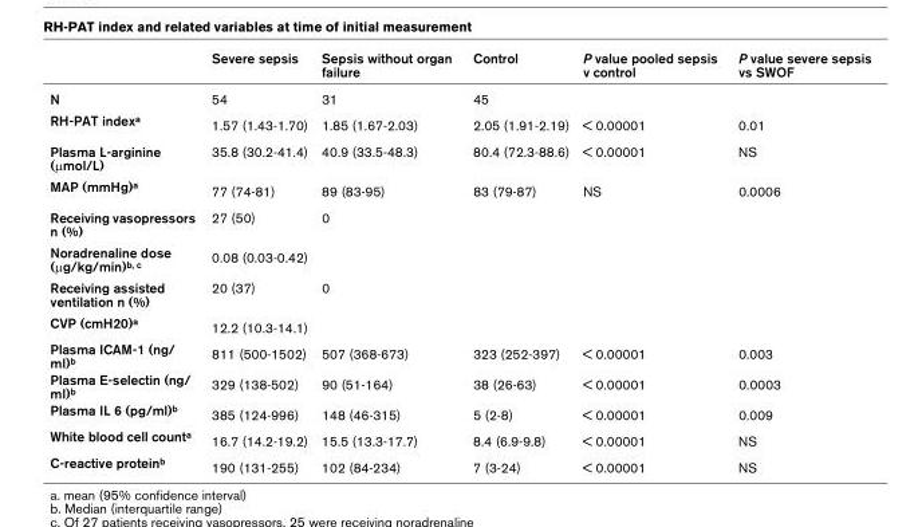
<table><thead><tr><td></td><td>Severe sepsis</td><td>Sepsis without organ failure</td><td>Control</td><td>P value pooled sepsis v control</td><td>P value severe sepsis vs SWOF</td></tr></thead><tbody><tr><td>N</td><td>54</td><td>31</td><td>45</td><td></td><td></td></tr><tr><td>RH-PAT index<sup>a</sup></td><td>1.57 (1.43-1.70)</td><td>1.85 (1.67-2.03)</td><td>2.05 (1.91-2.19)</td><td>&lt; 0.00001</td><td>0.01</td></tr><tr><td>Plasma L-arginine (μmol/L)</td><td>35.8 (30.2-41.4)</td><td>40.9 (33.5-48.3)</td><td>80.4 (72.3-88.6)</td><td>&lt; 0.00001</td><td>NS</td></tr><tr><td>MAP (mmHg)<sup>a</sup></td><td>77 (74-81)</td><td>89 (83-95)</td><td>83 (79-87)</td><td>NS</td><td>0.0006</td></tr><tr><td>Receiving vasopressors n (%)</td><td>27 (50)</td><td>0</td><td></td><td></td><td></td></tr><tr><td>Noradrenaline dose (μg/kg/min)<sup>b, c</sup></td><td>0.08 (0.03-0.42)</td><td></td><td></td><td></td><td></td></tr><tr><td>Receiving assisted ventilation n (%)</td><td>20 (37)</td><td>0</td><td></td><td></td><td></td></tr><tr><td>CVP (cmH20)<sup>a</sup></td><td>12.2 (10.3-14.1)</td><td></td><td></td><td></td><td></td></tr><tr><td>Plasma ICAM-1 (ng/ ml)<sup>b</sup></td><td>811 (500-1502)</td><td>507 (368-673)</td><td>323 (252-397)</td><td>&lt; 0.00001</td><td>0.003</td></tr><tr><td>Plasma E-selectin (ng/ ml)<sup>b</sup></td><td>329 (138-502)</td><td>90 (51-164)</td><td>38 (26-63)</td><td>&lt; 0.00001</td><td>0.0003</td></tr><tr><td>Plasma IL 6 (pg/ml)<sup>b</sup></td><td>385 (124-996)</td><td>148 (46-315)</td><td>5 (2-8)</td><td>&lt; 0.00001</td><td>0.009</td></tr><tr><td>White blood cell count<sup>a</sup></td><td>16.7 (14.2-19.2)</td><td>15.5 (13.3-17.7)</td><td>8.4 (6.9-9.8)</td><td>&lt; 0.00001</td><td>NS</td></tr><tr><td>C-reactive protein<sup>b</sup></td><td>190 (131-255)</td><td>102 (84-234)</td><td>7 (3-24)</td><td>&lt; 0.00001</td><td>NS</td></tr></tbody></table>